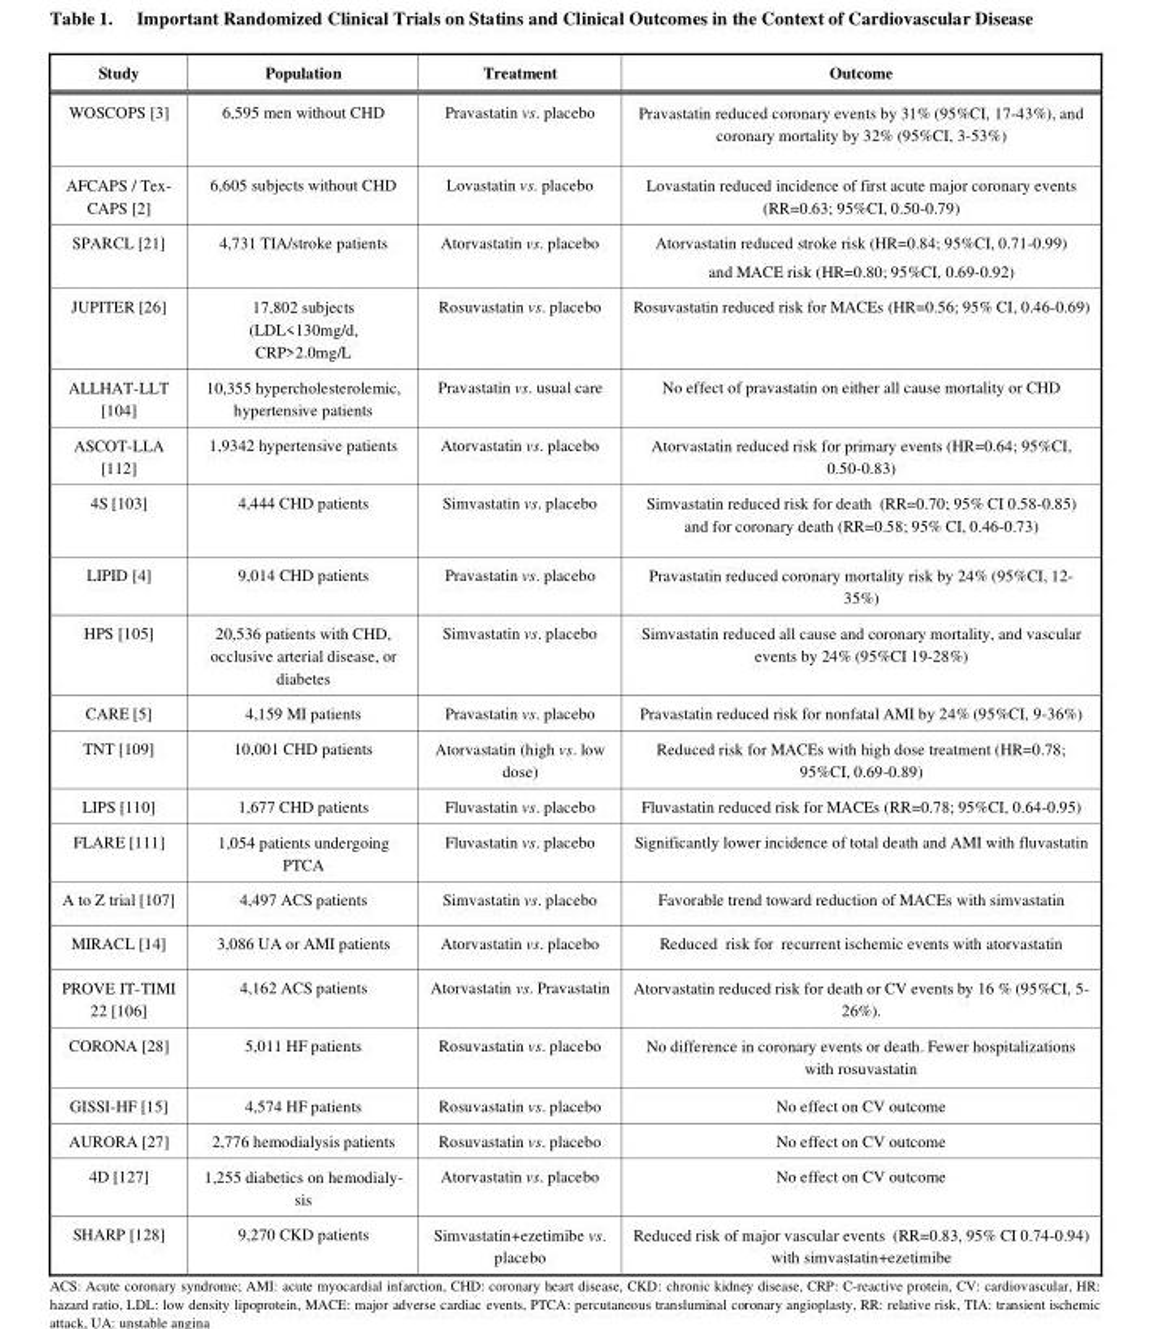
<table><thead><tr><td>Study</td><td>Population</td><td>Treatment</td><td>Outcome</td></tr></thead><tbody><tr><td>WOSCOPS [3]</td><td>6,595 men without CHD</td><td>Pravastatin vs. placebo</td><td>Pravastatin reduced coronary events by 31% (95%CI, 17-43%), and coronary mortality by 32% (95%CI, 3-53%)</td></tr><tr><td>AFCAPS / Tex- CAPS [2]</td><td>6,605 subjects without CHD</td><td>Lovastatin vs. placebo</td><td>Lovastatin reduced incidence of first acute major coronary events (RR=0.63; 95%CI, 0.50-0.79)</td></tr><tr><td>SPARCL [21]</td><td>4,731 TIA/stroke patients</td><td>Atorvastatin vs. placebo</td><td>Atorvastatin reduced stroke risk (HR=0.84; 95%CI, 0.71-0.99) and MACE risk (HR=0.80; 95%CI, 0.69-0.92)</td></tr><tr><td>JUPITER [26]</td><td>17,802 subjects (LDL&lt;130mg/d, CRP&gt;2.0mg/L</td><td>Rosuvastatin vs. placebo</td><td>Rosuvastatin reduced risk for MACEs (HR=0.56; 95% CI, 0.46-0.69)</td></tr><tr><td>ALLHAT-LLT [104]</td><td>10,355 hypercholesterolemic, hypertensive patients</td><td>Pravastatin vs. usual care</td><td>No effect of pravastatin on either all cause mortality or CHD</td></tr><tr><td>ASCOT-LLA [112]</td><td>1,9342 hypertensive patients</td><td>Atorvastatin vs. placebo</td><td>Atorvastatin reduced risk for primary events (HR=0.64; 95%CI, 0.50-0.83)</td></tr><tr><td>4S [103]</td><td>4,444 CHD patients</td><td>Simvastatin vs. placebo</td><td>Simvastatin reduced risk for death (RR=0.70; 95% CI 0.58-0.85) and for coronary death (RR=0.58; 95% CI, 0.46-0.73)</td></tr><tr><td>LIPID [4]</td><td>9,014 CHD patients</td><td>Pravastatin vs. placebo</td><td>Pravastatin reduced coronary mortality risk by 24% (95%CI, 12- 35%)</td></tr><tr><td>HPS [105]</td><td>20,536 patients with CHD, occlusive arterial disease, or diabetes</td><td>Simvastatin vs. placebo</td><td>Simvastatin reduced all cause and coronary mortality, and vascular events by 24% (95%CI 19-28%)</td></tr><tr><td>CARE [5]</td><td>4,159 MI patients</td><td>Pravastatin vs. placebo</td><td>Pravastatin reduced risk for nonfatal AMI by 24% (95%CI, 9-36%)</td></tr><tr><td>TNT [109]</td><td>10,001 CHD patients</td><td>Atorvastatin (high vs. low dose)</td><td>Reduced risk for MACEs with high dose treatment (HR=0.78; 95%CI, 0.69-0.89)</td></tr><tr><td>LIPS [110]</td><td>1,677 CHD patients</td><td>Fluvastatin vs. placebo</td><td>Fluvastatin reduced risk for MACEs (RR=0.78; 95%CI, 0.64-0.95)</td></tr><tr><td>FLARE [111]</td><td>1,054 patients undergoing PTCA</td><td>Fluvastatin vs. placebo</td><td>Significantly lower incidence of total death and AMI with fluvastatin</td></tr><tr><td>A to Z trial [107]</td><td>4,497 ACS patients</td><td>Simvastatin vs. placebo</td><td>Favorable trend toward reduction of MACEs with simvastatin</td></tr><tr><td>MIRACL [14]</td><td>3,086 UA or AMI patients</td><td>Atorvastatin vs. placebo</td><td>Reduced risk for recurrent ischemic events with atorvastatin</td></tr><tr><td>PROVE IT-TIMI 22 [106]</td><td>4,162 ACS patients</td><td>Atorvastatin vs. Pravastatin</td><td>Atorvastatin reduced risk for death or CV events by 16 % (95%CI, 5- 26%).</td></tr><tr><td>CORONA [28]</td><td>5,011 HF patients</td><td>Rosuvastatin vs. placebo</td><td>No difference in coronary events or death. Fewer hospitalizations with rosuvastatin</td></tr><tr><td>GISSI-HF [15]</td><td>4,574 HF patients</td><td>Rosuvastatin vs. placebo</td><td>No effect on CV outcome</td></tr><tr><td>AURORA [27]</td><td>2,776 hemodialysis patients</td><td>Rosuvastatin vs. placebo</td><td>No effect on CV outcome</td></tr><tr><td>4D [127]</td><td>1,255 diabetics on hemodialy- sis</td><td>Atorvastatin vs. placebo</td><td>No effect on CV outcome</td></tr><tr><td>SHARP [128]</td><td>9,270 CKD patients</td><td>Simvastatin+ezetimibe vs. placebo</td><td>Reduced risk of major vascular events (RR=0.83, 95% CI 0.74-0.94) with simvastatin+ezetimibe</td></tr></tbody></table>